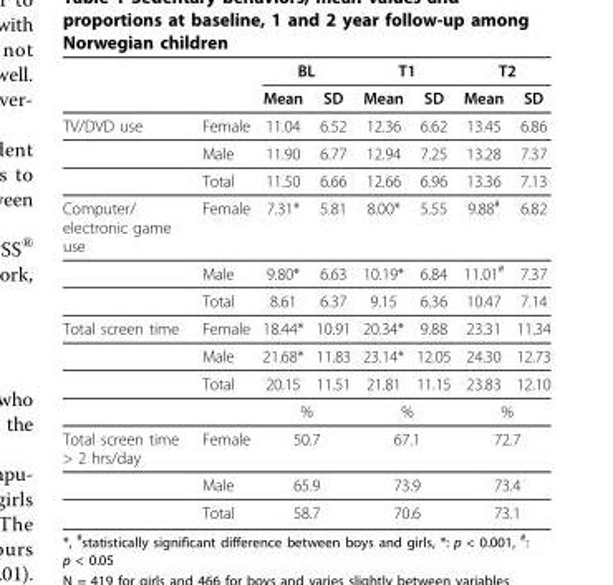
<table><thead><tr><td rowspan="2"></td><td rowspan="2"></td><td colspan="2">BL</td><td colspan="2">T1</td><td colspan="2">T2</td></tr><tr><td>Mean</td><td>SD</td><td>Mean</td><td>SD</td><td>Mean</td><td>SD</td></tr></thead><tbody><tr><td rowspan="3">TV/DVD use</td><td>Female</td><td>11.04</td><td>6.52</td><td>12.36</td><td>6.62</td><td>13.45</td><td>6.86</td></tr><tr><td>Male</td><td>11.90</td><td>6.77</td><td>12.94</td><td>7.25</td><td>13.28</td><td>7.37</td></tr><tr><td>Total</td><td>11.50</td><td>6.66</td><td>12.66</td><td>6.96</td><td>13.36</td><td>7.13</td></tr><tr><td rowspan="3">Computer/ electronic game use</td><td>Female</td><td>7.31*</td><td>5.81</td><td>8.00*</td><td>5.55</td><td>9.88<sup>#</sup></td><td>6.82</td></tr><tr><td>Male</td><td>9.80*</td><td>6.63</td><td>10.19*</td><td>6.84</td><td>11.01<sup>#</sup></td><td>7.37</td></tr><tr><td>Total</td><td>8.61</td><td>6.37</td><td>9.15</td><td>6.36</td><td>10.47</td><td>7.14</td></tr><tr><td rowspan="4">Total screen time</td><td>Female</td><td>18.44*</td><td>10.91</td><td>20.34*</td><td>9.88</td><td>23.31</td><td>11.34</td></tr><tr><td>Male</td><td>21.68*</td><td>11.83</td><td>23.14*</td><td>12.05</td><td>24.30</td><td>12.73</td></tr><tr><td>Total</td><td>20.15</td><td>11.51</td><td>21.81</td><td>11.15</td><td>23.83</td><td>12.10</td></tr><tr><td></td><td colspan="2">%</td><td colspan="2">%</td><td colspan="2">%</td></tr><tr><td rowspan="3">Total screen time &gt; 2 hrs/day</td><td>Female</td><td colspan="2">50.7</td><td colspan="2">67.1</td><td colspan="2">72.7</td></tr><tr><td>Male</td><td colspan="2">65.9</td><td colspan="2">73.9</td><td colspan="2">73.4</td></tr><tr><td>Total</td><td colspan="2">58.7</td><td colspan="2">70.6</td><td colspan="2">73.1</td></tr></tbody></table>